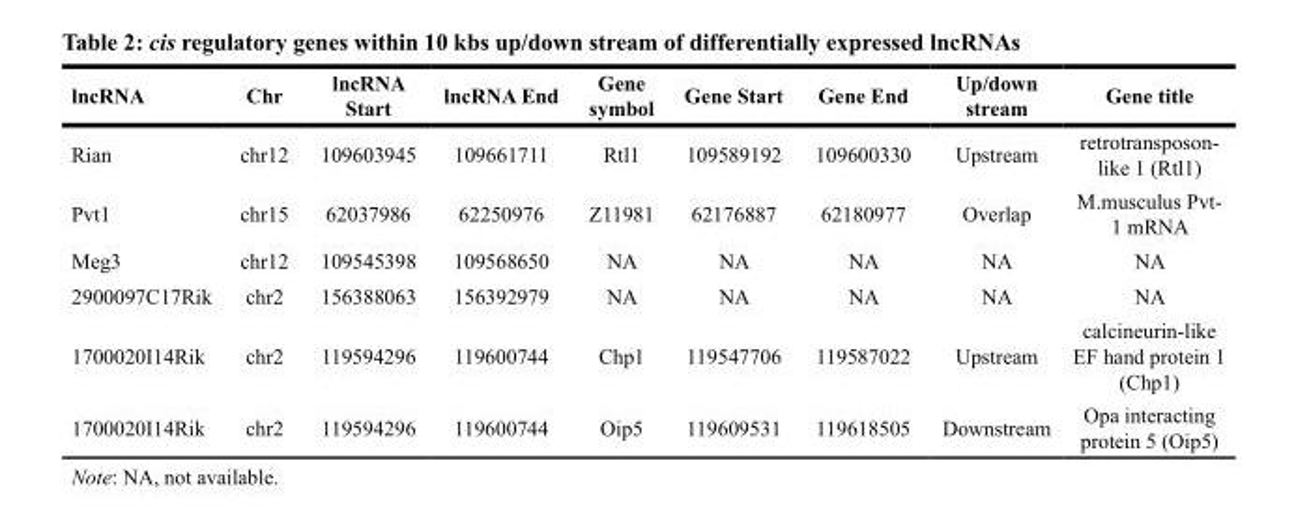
<table><thead><tr><td>lncRNA</td><td>Chr</td><td>lncRNA Start</td><td>lncRNA End</td><td>Gene symbol</td><td>Gene Start</td><td>Gene End</td><td>Up/down stream</td><td>Gene title</td></tr></thead><tbody><tr><td>Rian</td><td>chr12</td><td>109603945</td><td>109661711</td><td>Rtl1</td><td>109589192</td><td>109600330</td><td>Upstream</td><td>retrotransposon- like 1 (Rtl1)</td></tr><tr><td>Pvt1</td><td>chr15</td><td>62037986</td><td>62250976</td><td>Z11981</td><td>62176887</td><td>62180977</td><td>Overlap</td><td>M.musculus Pvt- 1 mRNA</td></tr><tr><td>Meg3</td><td>chr12</td><td>109545398</td><td>109568650</td><td>NA</td><td>NA</td><td>NA</td><td>NA</td><td>NA</td></tr><tr><td>2900097C17Rik</td><td>chr2</td><td>156388063</td><td>156392979</td><td>NA</td><td>NA</td><td>NA</td><td>NA</td><td>NA</td></tr><tr><td>1700020I14Rik</td><td>chr2</td><td>119594296</td><td>119600744</td><td>Chp1</td><td>119547706</td><td>119587022</td><td>Upstream</td><td>calcineurin-like EF hand protein 1 (Chp1)</td></tr><tr><td>1700020I14Rik</td><td>chr2</td><td>119594296</td><td>119600744</td><td>Oip5</td><td>119609531</td><td>119618505</td><td>Downstream</td><td>Opa interacting protein 5 (Oip5)</td></tr></tbody></table>